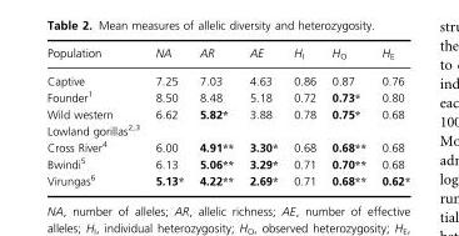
<table><thead><tr><td>Population</td><td>NA</td><td>AR</td><td>AE</td><td>H<sub>I</sub></td><td>H<sub>O</sub></td><td>H<sub>E</sub></td></tr></thead><tbody><tr><td>Captive</td><td>7.25</td><td>7.03</td><td>4.63</td><td>0.86</td><td>0.87</td><td>0.76</td></tr><tr><td>Founder<sup>1</sup></td><td>8.50</td><td>8.48</td><td>5.18</td><td>0.72</td><td>0.73*</td><td>0.80</td></tr><tr><td>Wild western Lowland gorillas<sup>2</sup>,<sup>3</sup></td><td>6.62</td><td>5.82*</td><td>3.88</td><td>0.78</td><td>0.75*</td><td>0.68</td></tr><tr><td>Cross River<sup>4</sup></td><td>6.00</td><td>4.91**</td><td>3.30*</td><td>0.68</td><td>0.68**</td><td>0.68</td></tr><tr><td>Bwindi<sup>5</sup></td><td>6.13</td><td>5.06**</td><td>3.29*</td><td>0.71</td><td>0.70**</td><td>0.68</td></tr><tr><td>Virungas<sup>6</sup></td><td>5.13*</td><td>4.22**</td><td>2.69*</td><td>0.71</td><td>0.68**</td><td>0.62*</td></tr></tbody></table>